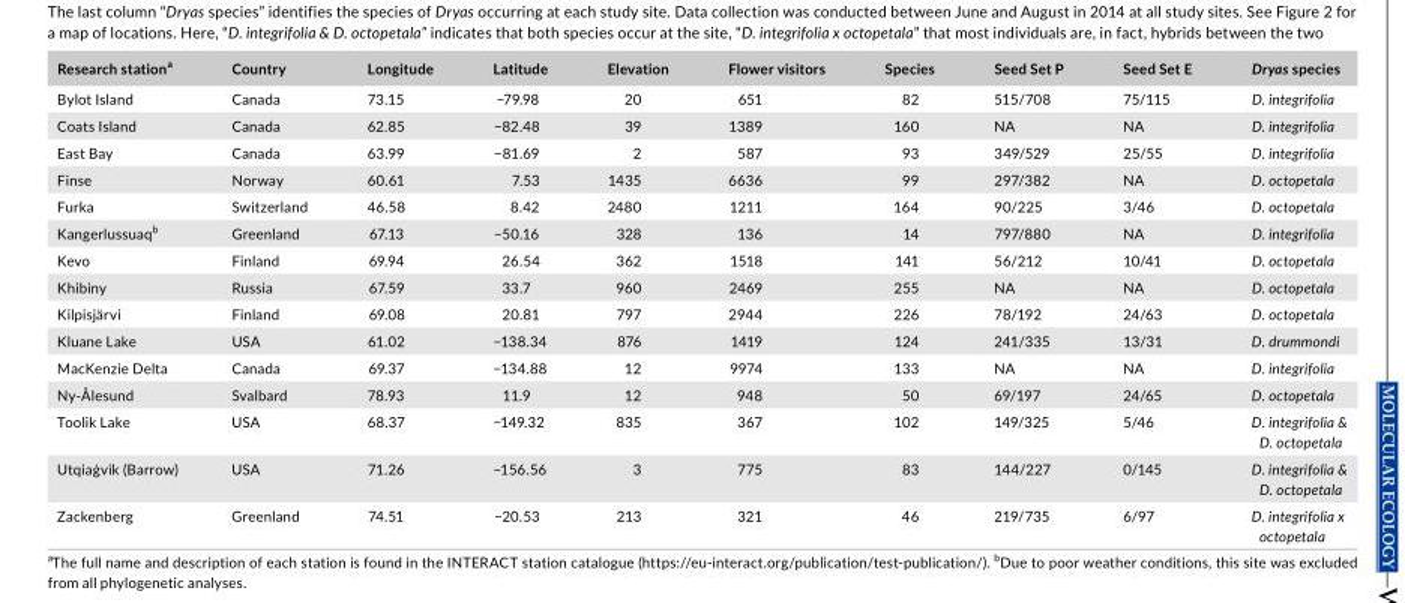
<table><thead><tr><td>Research station<sup>a</sup></td><td>Country</td><td>Longitude</td><td>Latitude</td><td>Elevation</td><td>Flower visitors</td><td>Species</td><td>Seed Set P</td><td>Seed Set E</td><td>Dryas species</td></tr></thead><tbody><tr><td>Bylot Island</td><td>Canada</td><td>73.15</td><td>−79.98</td><td>20</td><td>651</td><td>82</td><td>515/708</td><td>75/115</td><td>D. integrifolia</td></tr><tr><td>Coats Island</td><td>Canada</td><td>62.85</td><td>−82.48</td><td>39</td><td>1389</td><td>160</td><td>NA</td><td>NA</td><td>D. integrifolia</td></tr><tr><td>East Bay</td><td>Canada</td><td>63.99</td><td>−81.69</td><td>2</td><td>587</td><td>93</td><td>349/529</td><td>25/55</td><td>D. integrifolia</td></tr><tr><td>Finse</td><td>Norway</td><td>60.61</td><td>7.53</td><td>1435</td><td>6636</td><td>99</td><td>297/382</td><td>NA</td><td>D. octopetala</td></tr><tr><td>Furka</td><td>Switzerland</td><td>46.58</td><td>8.42</td><td>2480</td><td>1211</td><td>164</td><td>90/225</td><td>3/46</td><td>D. octopetala</td></tr><tr><td>Kangerlussuaq<sup>b</sup></td><td>Greenland</td><td>67.13</td><td>−50.16</td><td>328</td><td>136</td><td>14</td><td>797/880</td><td>NA</td><td>D. integrifolia</td></tr><tr><td>Kevo</td><td>Finland</td><td>69.94</td><td>26.54</td><td>362</td><td>1518</td><td>141</td><td>56/212</td><td>10/41</td><td>D. octopetala</td></tr><tr><td>Khibiny</td><td>Russia</td><td>67.59</td><td>33.7</td><td>960</td><td>2469</td><td>255</td><td>NA</td><td>NA</td><td>D. octopetala</td></tr><tr><td>Kilpisjärvi</td><td>Finland</td><td>69.08</td><td>20.81</td><td>797</td><td>2944</td><td>226</td><td>78/192</td><td>24/63</td><td>D. octopetala</td></tr><tr><td>Kluane Lake</td><td>USA</td><td>61.02</td><td>−138.34</td><td>876</td><td>1419</td><td>124</td><td>241/335</td><td>13/31</td><td>D. drummondi</td></tr><tr><td>MacKenzie Delta</td><td>Canada</td><td>69.37</td><td>−134.88</td><td>12</td><td>9974</td><td>133</td><td>NA</td><td>NA</td><td>D. integrifolia</td></tr><tr><td>Ny‐Ålesund</td><td>Svalbard</td><td>78.93</td><td>11.9</td><td>12</td><td>948</td><td>50</td><td>69/197</td><td>24/65</td><td>D. octopetala</td></tr><tr><td>Toolik Lake</td><td>USA</td><td>68.37</td><td>−149.32</td><td>835</td><td>367</td><td>102</td><td>149/325</td><td>5/46</td><td>D. integrifolia &amp; D. octopetala</td></tr><tr><td>Utqiaģvik (Barrow)</td><td>USA</td><td>71.26</td><td>−156.56</td><td>3</td><td>775</td><td>83</td><td>144/227</td><td>0/145</td><td>D. integrifolia &amp; D. octopetala</td></tr><tr><td>Zackenberg</td><td>Greenland</td><td>74.51</td><td>−20.53</td><td>213</td><td>321</td><td>46</td><td>219/735</td><td>6/97</td><td>D. integrifolia x octopetala</td></tr></tbody></table>